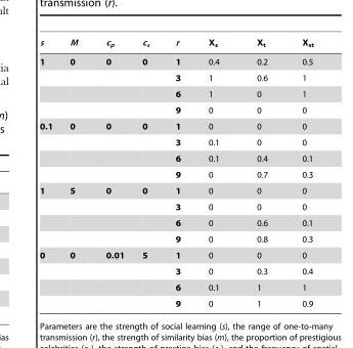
<table><thead><tr><td>s</td><td>M</td><td>c<sub>p</sub></td><td>c<sub>s</sub></td><td>r</td><td>X<sub>s</sub></td><td>X<sub>t</sub></td><td>X<sub>st</sub></td></tr></thead><tbody><tr><td rowspan="4">1</td><td>0</td><td>0</td><td>0</td><td>1</td><td>0.4</td><td>0.2</td><td>0.5</td></tr><tr><td></td><td></td><td></td><td>3</td><td>1</td><td>0.6</td><td>1</td></tr><tr><td></td><td></td><td></td><td>6</td><td>1</td><td>0</td><td>1</td></tr><tr><td></td><td></td><td></td><td>9</td><td>0</td><td>0</td><td>0</td></tr><tr><td rowspan="4">0.1</td><td>0</td><td>0</td><td>0</td><td>1</td><td>0</td><td>0</td><td>0</td></tr><tr><td></td><td></td><td></td><td>3</td><td>0.1</td><td>0</td><td>0</td></tr><tr><td></td><td></td><td></td><td>6</td><td>0.1</td><td>0.4</td><td>0.1</td></tr><tr><td></td><td></td><td></td><td>9</td><td>0</td><td>0.7</td><td>0.3</td></tr><tr><td rowspan="4">1</td><td>5</td><td>0</td><td>0</td><td>1</td><td>0</td><td>0</td><td>0</td></tr><tr><td></td><td></td><td></td><td>3</td><td>0</td><td>0</td><td>0</td></tr><tr><td></td><td></td><td></td><td>6</td><td>0</td><td>0.6</td><td>0.1</td></tr><tr><td></td><td></td><td></td><td>9</td><td>0</td><td>0.8</td><td>0.3</td></tr><tr><td rowspan="4">0</td><td>0</td><td>0.01</td><td>5</td><td>1</td><td>0</td><td>0</td><td>0</td></tr><tr><td></td><td></td><td></td><td>3</td><td>0</td><td>0.3</td><td>0.4</td></tr><tr><td></td><td></td><td></td><td>6</td><td>0.1</td><td>1</td><td>1</td></tr><tr><td></td><td></td><td></td><td>9</td><td>0</td><td>1</td><td>0.9</td></tr></tbody></table>